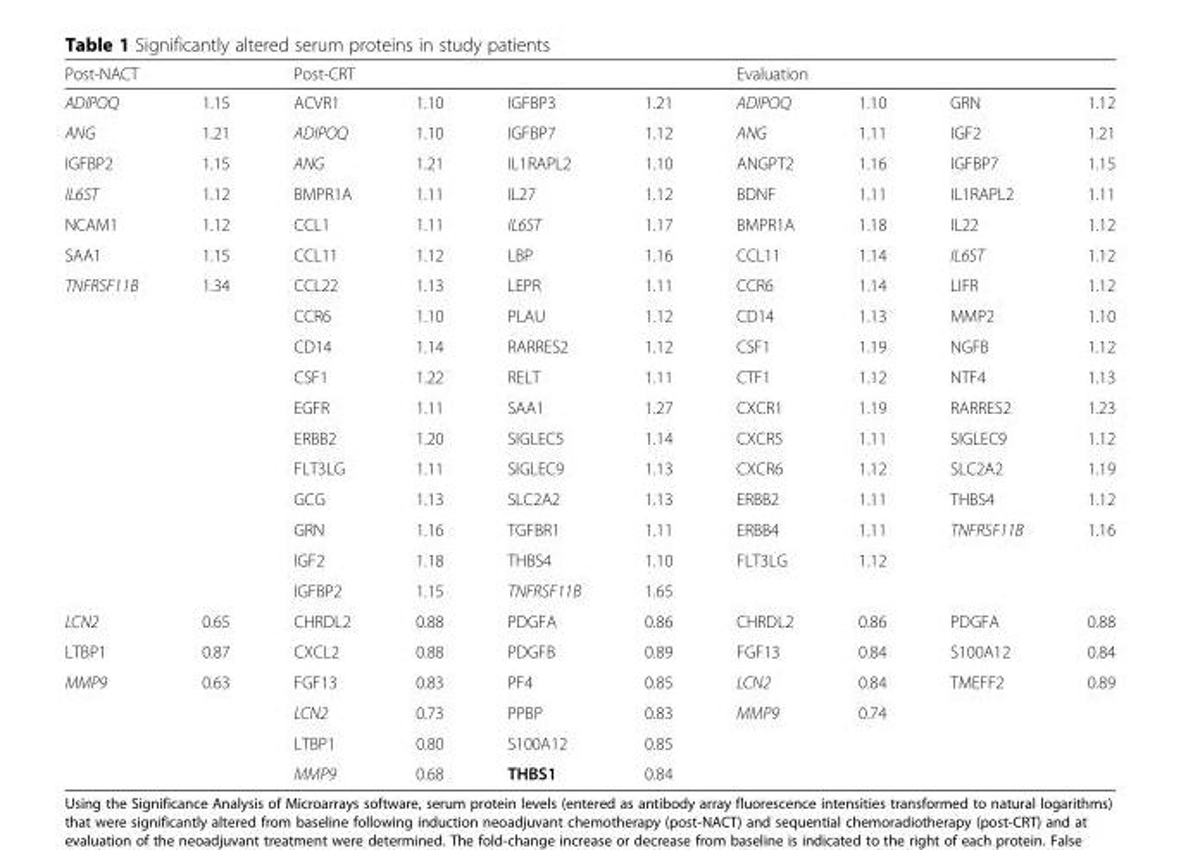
<table><thead><tr><td colspan="2">Post-NACT</td><td colspan="4">Post-CRT</td><td colspan="4">Evaluation</td></tr><tr><td>ADIPOQ</td><td>1.15</td><td>ACVR1</td><td>1.10</td><td>IGFBP3</td><td>1.21</td><td>ADIPOQ</td><td>1.10</td><td>GRN</td><td>1.12</td></tr></thead><tbody><tr><td>ANG</td><td>1.21</td><td>ADIPOQ</td><td>1.10</td><td>IGFBP7</td><td>1.12</td><td>ANG</td><td>1.11</td><td>IGF2</td><td>1.21</td></tr><tr><td>IGFBP2</td><td>1.15</td><td>ANG</td><td>1.21</td><td>IL1RAPL2</td><td>1.10</td><td>ANGPT2</td><td>1.16</td><td>IGFBP7</td><td>1.15</td></tr><tr><td>IL6ST</td><td>1.12</td><td>BMPR1A</td><td>1.11</td><td>IL27</td><td>1.12</td><td>BDNF</td><td>1.11</td><td>IL1RAPL2</td><td>1.11</td></tr><tr><td>NCAM1</td><td>1.12</td><td>CCL1</td><td>1.11</td><td>IL6ST</td><td>1.17</td><td>BMPR1A</td><td>1.18</td><td>IL22</td><td>1.12</td></tr><tr><td>SAA1</td><td>1.15</td><td>CCL11</td><td>1.12</td><td>LBP</td><td>1.16</td><td>CCL11</td><td>1.14</td><td>IL6ST</td><td>1.12</td></tr><tr><td rowspan="11">TNFRSF11B</td><td>1.34</td><td>CCL22</td><td>1.13</td><td>LEPR</td><td>1.11</td><td>CCR6</td><td>1.14</td><td>LIFR</td><td>1.12</td></tr><tr><td></td><td>CCR6</td><td>1.10</td><td>PLAU</td><td>1.12</td><td>CD14</td><td>1.13</td><td>MMP2</td><td>1.10</td></tr><tr><td></td><td>CD14</td><td>1.14</td><td>RARRES2</td><td>1.12</td><td>CSF1</td><td>1.19</td><td>NGFB</td><td>1.12</td></tr><tr><td></td><td>CSF1</td><td>1.22</td><td>RELT</td><td>1.11</td><td>CTF1</td><td>1.12</td><td>NTF4</td><td>1.13</td></tr><tr><td></td><td>EGFR</td><td>1.11</td><td>SAA1</td><td>1.27</td><td>CXCR1</td><td>1.19</td><td>RARRES2</td><td>1.23</td></tr><tr><td></td><td>ERBB2</td><td>1.20</td><td>SIGLEC5</td><td>1.14</td><td>CXCR5</td><td>1.11</td><td>SIGLEC9</td><td>1.12</td></tr><tr><td></td><td>FLT3LG</td><td>1.11</td><td>SIGLEC9</td><td>1.13</td><td>CXCR6</td><td>1.12</td><td>SLC2A2</td><td>1.19</td></tr><tr><td></td><td>GCG</td><td>1.13</td><td>SLC2A2</td><td>1.13</td><td>ERBB2</td><td>1.11</td><td>THBS4</td><td>1.12</td></tr><tr><td></td><td>GRN</td><td>1.16</td><td>TGFBR1</td><td>1.11</td><td>ERBB4</td><td>1.11</td><td>TNFRSF11B</td><td>1.16</td></tr><tr><td></td><td>IGF2</td><td>1.18</td><td>THBS4</td><td>1.10</td><td>FLT3LG</td><td>1.12</td><td></td><td></td></tr><tr><td></td><td>IGFBP2</td><td>1.15</td><td>TNFRSF11B</td><td>1.65</td><td></td><td></td><td></td><td></td></tr><tr><td>LCN2</td><td>0.65</td><td>CHRDL2</td><td>0.88</td><td>PDGFA</td><td>0.86</td><td>CHRDL2</td><td>0.86</td><td>PDGFA</td><td>0.88</td></tr><tr><td>LTBP1</td><td>0.87</td><td>CXCL2</td><td>0.88</td><td>PDGFB</td><td>0.89</td><td>FGF13</td><td>0.84</td><td>S100A12</td><td>0.84</td></tr><tr><td rowspan="4">MMP9</td><td>0.63</td><td>FGF13</td><td>0.83</td><td>PF4</td><td>0.85</td><td>LCN2</td><td>0.84</td><td>TMEFF2</td><td>0.89</td></tr><tr><td></td><td>LCN2</td><td>0.73</td><td>PPBP</td><td>0.83</td><td>MMP9</td><td>0.74</td><td></td><td></td></tr><tr><td></td><td>LTBP1</td><td>0.80</td><td>S100A12</td><td>0.85</td><td></td><td></td><td></td><td></td></tr><tr><td></td><td>MMP9</td><td>0.68</td><td>THBS1</td><td>0.84</td><td></td><td></td><td></td><td></td></tr></tbody></table>